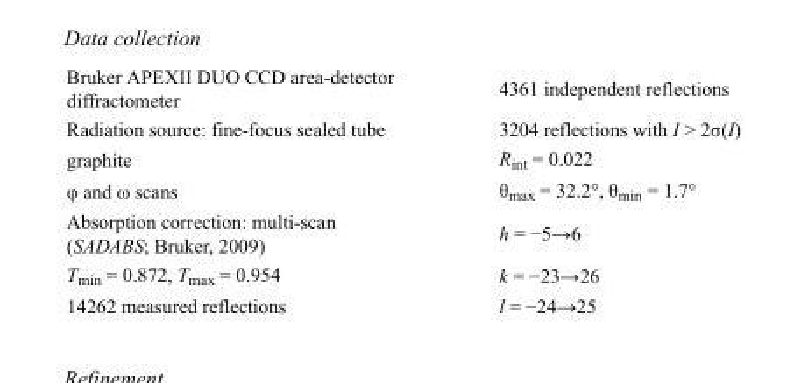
<table><tbody><tr><td>Bruker APEXII DUO CCD area-detector diffractometer</td><td>4361 independent reflections</td></tr><tr><td>Radiation source: fine-focus sealed tube</td><td>3204 reflections with I &gt; 2σ(I)</td></tr><tr><td>graphite</td><td>R<sub>int</sub> = 0.022</td></tr><tr><td>φ and ω scans</td><td>θ<sub>max</sub> = 32.2°, θ<sub>min</sub> = 1.7°</td></tr><tr><td>Absorption correction: multi-scan (SADABS; Bruker, 2009)</td><td>h = −5→6</td></tr><tr><td>T<sub>min</sub> = 0.872, T<sub>max</sub> = 0.954</td><td>k = −23→26</td></tr><tr><td>14262 measured reflections</td><td>l = −24→25</td></tr></tbody></table>